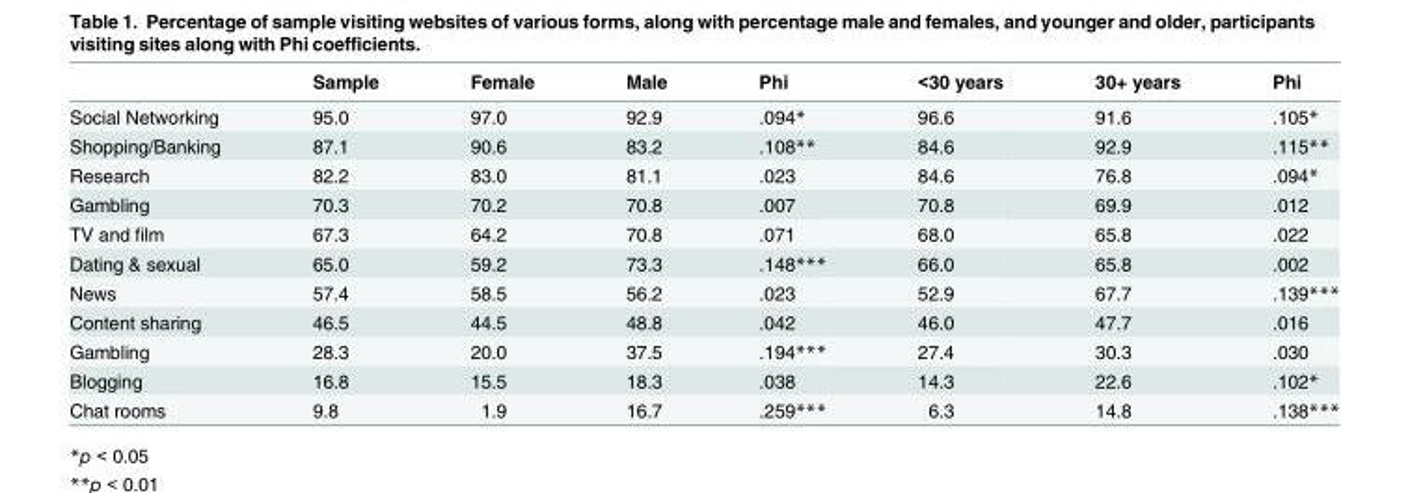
<table><thead><tr><td></td><td>Sample</td><td>Female</td><td>Male</td><td>Phi</td><td>&lt;30 years</td><td>30+ years</td><td>Phi</td></tr></thead><tbody><tr><td>Social Networking</td><td>95.0</td><td>97.0</td><td>92.9</td><td>.094*</td><td>96.6</td><td>91.6</td><td>.105*</td></tr><tr><td>Shopping/Banking</td><td>87.1</td><td>90.6</td><td>83.2</td><td>.108**</td><td>84.6</td><td>92.9</td><td>.115**</td></tr><tr><td>Research</td><td>82.2</td><td>83.0</td><td>81.1</td><td>.023</td><td>84.6</td><td>76.8</td><td>.094*</td></tr><tr><td>Gambling</td><td>70.3</td><td>70.2</td><td>70.8</td><td>.007</td><td>70.8</td><td>69.9</td><td>.012</td></tr><tr><td>TV and film</td><td>67.3</td><td>64.2</td><td>70.8</td><td>.071</td><td>68.0</td><td>65.8</td><td>.022</td></tr><tr><td>Dating &amp; sexual</td><td>65.0</td><td>59.2</td><td>73.3</td><td>.148***</td><td>66.0</td><td>65.8</td><td>.002</td></tr><tr><td>News</td><td>57.4</td><td>58.5</td><td>56.2</td><td>.023</td><td>52.9</td><td>67.7</td><td>.139***</td></tr><tr><td>Content sharing</td><td>46.5</td><td>44.5</td><td>48.8</td><td>.042</td><td>46.0</td><td>47.7</td><td>.016</td></tr><tr><td>Gambling</td><td>28.3</td><td>20.0</td><td>37.5</td><td>.194***</td><td>27.4</td><td>30.3</td><td>.030</td></tr><tr><td>Blogging</td><td>16.8</td><td>15.5</td><td>18.3</td><td>.038</td><td>14.3</td><td>22.6</td><td>.102*</td></tr><tr><td>Chat rooms</td><td>9.8</td><td>1.9</td><td>16.7</td><td>.259***</td><td>6.3</td><td>14.8</td><td>.138***</td></tr></tbody></table>